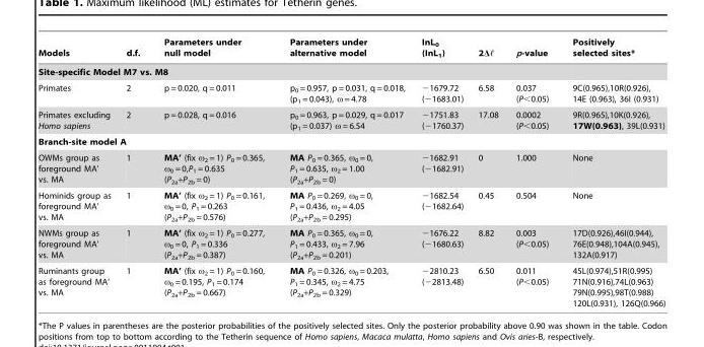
<table><thead><tr><td>Models</td><td>d.f.</td><td>Parameters under null model</td><td>Parameters under alternative model</td><td>InL<sub>0</sub> (InL<sub>1</sub>)</td><td>2D,</td><td>p-value</td><td>Positively selected sites*</td></tr></thead><tbody><tr><td colspan="8">Site-specific Model M7 vs. M8</td></tr><tr><td>Primates</td><td>2</td><td>p = 0.020, q = 0.011</td><td>p<sub>0</sub> = 0.957, p = 0.031, q = 0.018, (p<sub>1</sub> = 0.043), ω = 4.78</td><td>−1679.72 (−1683.01)</td><td>6.58</td><td>0.037 (P&lt;0.05)</td><td>9C(0.965),10R(0.926), 14E (0.963), 36I (0.931)</td></tr><tr><td>Primates excluding Homo sapiens</td><td>2</td><td>p = 0.028, q = 0.016</td><td>p<sub>0</sub> = 0.963, p = 0.029, q = 0.017 (p<sub>1</sub> = 0.037) ω = 6.54</td><td>−1751.83 (−1760.37)</td><td>17.08</td><td>0.0002 (P&lt;0.05)</td><td>9R(0.965),10K(0.926), 17W(0.963), 39L(0.931)</td></tr><tr><td colspan="8">Branch-site model A</td></tr><tr><td>OWMs group as foreground MA’ vs. MA</td><td>1</td><td>MA’ (fix ω<sub>2</sub> = 1) P<sub>0</sub> = 0.365, ω<sub>0</sub> = 0,P<sub>1</sub> = 0.635 (P<sub>2a</sub>+P<sub>2b</sub> = 0)</td><td>MA P<sub>0</sub> = 0.365, ω<sub>0</sub> = 0, P<sub>1</sub> = 0.635, ω<sub>2</sub> = 1.00 (P<sub>2a</sub>+P<sub>2b</sub> = 0)</td><td>−1682.91 (−1682.91)</td><td>0</td><td>1.000</td><td>None</td></tr><tr><td>Hominids group as foreground MA’ vs. MA</td><td>1</td><td>MA’ (fix ω<sub>2</sub> = 1) P<sub>0</sub> = 0.161, ω<sub>0</sub> = 0, P<sub>1</sub> = 0.263 (P<sub>2a</sub>+P<sub>2b</sub> = 0.576)</td><td>MA P<sub>0</sub> = 0.269, ω<sub>0</sub> = 0, P<sub>1</sub> = 0.436, ω<sub>2</sub> = 4.05 (P<sub>2a</sub>+P<sub>2b</sub> = 0.295)</td><td>−1682.54 (−1682.64)</td><td>0.45</td><td>0.504</td><td>None</td></tr><tr><td>NWMs group as foreground MA’ vs. MA</td><td>1</td><td>MA’ (fix ω<sub>2</sub> = 1) P<sub>0</sub> = 0.277, ω<sub>0</sub> = 0, P<sub>1</sub> = 0.336 (P<sub>2a</sub>+P<sub>2b</sub> = 0.387)</td><td>MA P<sub>0</sub> = 0.365, ω<sub>0</sub> = 0, P<sub>1</sub> = 0.433, ω<sub>2</sub> = 7.96 (P<sub>2a</sub>+P<sub>2b</sub> = 0.201)</td><td>−1676.22 (−1680.63)</td><td>8.82</td><td>0.003 (P&lt;0.05)</td><td>17D(0.926),46I(0.944), 76E(0.948),104A(0.945), 132A(0.917)</td></tr><tr><td>Ruminants group as foreground MA’ vs. MA</td><td>1</td><td>MA’ (fix ω<sub>2</sub> = 1) P<sub>0</sub> = 0.160, ω<sub>0</sub> = 0.195, P<sub>1</sub> = 0.174 (P<sub>2a</sub>+P<sub>2b</sub> = 0.667)</td><td>MA P<sub>0</sub> = 0.326, ω<sub>0</sub> = 0.203, P<sub>1</sub> = 0.345, ω<sub>2</sub> = 4.75 (P<sub>2a</sub>+P<sub>2b</sub> = 0.329)</td><td>−2810.23 (−2813.48)</td><td>6.50</td><td>0.011 (P&lt;0.05)</td><td>45L(0.974),51R(0.995) 71N(0.916),74L(0.963) 79N(0.995),98T(0.988) 120L(0.931), 126Q(0.966)</td></tr></tbody></table>